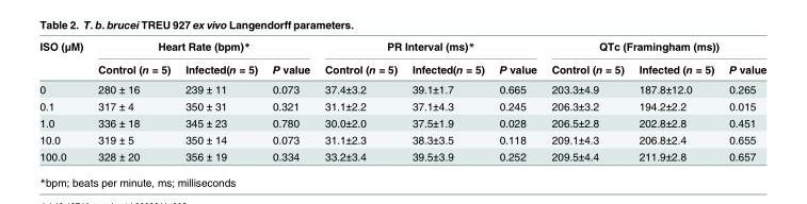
<table><thead><tr><td rowspan="2">ISO (μM)</td><td colspan="3">Heart Rate (bpm)*</td><td colspan="3">PR Interval (ms)*</td><td colspan="3">QTc (Framingham (ms))</td></tr><tr><td>Control (n = 5)</td><td>Infected(n = 5)</td><td>P value</td><td>Control (n = 5)</td><td>Infected(n = 5)</td><td>P value</td><td>Control (n = 5)</td><td>Infected (n = 5)</td><td>P value</td></tr></thead><tbody><tr><td>0</td><td>280 ± 16</td><td>239 ± 11</td><td>0.073</td><td>37.4±3.2</td><td>39.1±1.7</td><td>0.665</td><td>203.3±4.9</td><td>187.8±12.0</td><td>0.265</td></tr><tr><td>0.1</td><td>317 ± 4</td><td>350 ± 31</td><td>0.321</td><td>31.1±2.2</td><td>37.1±4.3</td><td>0.245</td><td>206.3±3.2</td><td>194.2±2.2</td><td>0.015</td></tr><tr><td>1.0</td><td>336 ± 18</td><td>345 ± 23</td><td>0.780</td><td>30.0±2.0</td><td>37.5±1.9</td><td>0.028</td><td>206.5±2.8</td><td>202.8±2.8</td><td>0.451</td></tr><tr><td>10.0</td><td>319 ± 5</td><td>350 ± 14</td><td>0.073</td><td>31.1±2.3</td><td>38.3±3.5</td><td>0.118</td><td>209.1±4.3</td><td>206.8±2.4</td><td>0.655</td></tr><tr><td>100.0</td><td>328 ± 20</td><td>356 ± 19</td><td>0.334</td><td>33.2±3.4</td><td>39.5±3.9</td><td>0.252</td><td>209.5±4.4</td><td>211.9±2.8</td><td>0.657</td></tr></tbody></table>